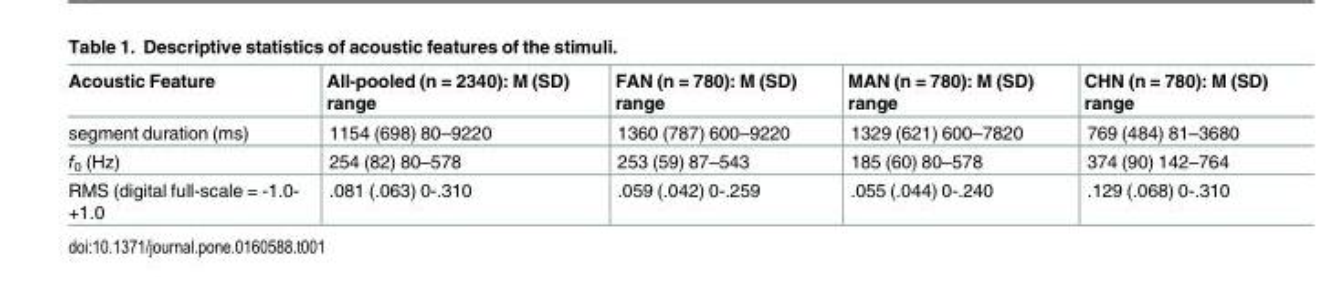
<table><thead><tr><td>Acoustic Feature</td><td>All-pooled (n = 2340): M (SD) range</td><td>FAN (n = 780): M (SD) range</td><td>MAN (n = 780): M (SD) range</td><td>CHN (n = 780): M (SD) range</td></tr></thead><tbody><tr><td>segment duration (ms)</td><td>1154 (698) 80–9220</td><td>1360 (787) 600–9220</td><td>1329 (621) 600–7820</td><td>769 (484) 81–3680</td></tr><tr><td>f<sub>0</sub> (Hz)</td><td>254 (82) 80–578</td><td>253 (59) 87–543</td><td>185 (60) 80–578</td><td>374 (90) 142–764</td></tr><tr><td>RMS (digital full-scale = -1.0- +1.0</td><td>.081 (.063) 0-.310</td><td>.059 (.042) 0-.259</td><td>.055 (.044) 0-.240</td><td>.129 (.068) 0-.310</td></tr></tbody></table>